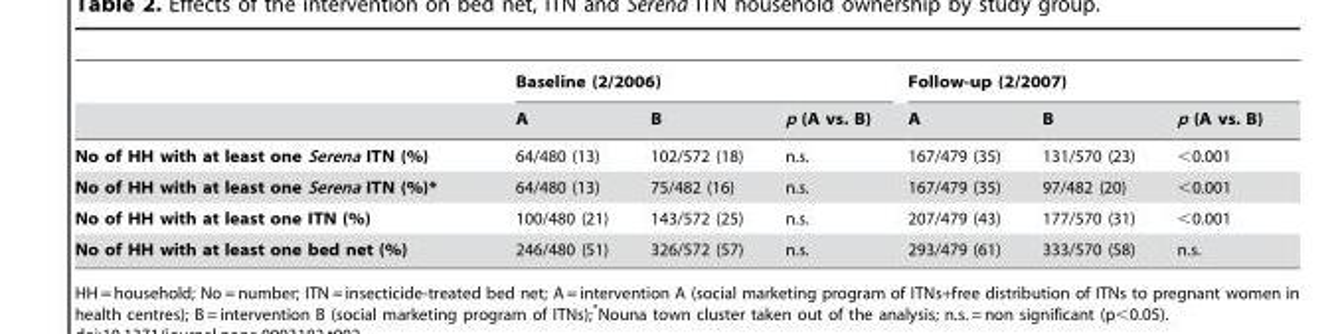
<table><thead><tr><td rowspan="2"></td><td colspan="3">Baseline (2/2006)</td><td colspan="3">Follow-up (2/2007)</td></tr><tr><td>A</td><td>B</td><td>p (A vs. B)</td><td>A</td><td>B</td><td>p (A vs. B)</td></tr></thead><tbody><tr><td>No of HH with at least one Serena ITN (%)</td><td>64/480 (13)</td><td>102/572 (18)</td><td>n.s.</td><td>167/479 (35)</td><td>131/570 (23)</td><td>&lt;0.001</td></tr><tr><td>No of HH with at least one Serena ITN (%)*</td><td>64/480 (13)</td><td>75/482 (16)</td><td>n.s.</td><td>167/479 (35)</td><td>97/482 (20)</td><td>&lt;0.001</td></tr><tr><td>No of HH with at least one ITN (%)</td><td>100/480 (21)</td><td>143/572 (25)</td><td>n.s.</td><td>207/479 (43)</td><td>177/570 (31)</td><td>&lt;0.001</td></tr><tr><td>No of HH with at least one bed net (%)</td><td>246/480 (51)</td><td>326/572 (57)</td><td>n.s.</td><td>293/479 (61)</td><td>333/570 (58)</td><td>n.s.</td></tr></tbody></table>